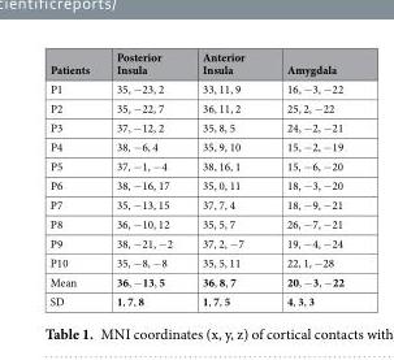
<table><thead><tr><td>Patients</td><td>Posterior Insula</td><td>Anterior Insula</td><td>Amygdala</td></tr></thead><tbody><tr><td>P1</td><td>35, −23, 2</td><td>33, 11, 9</td><td>16, −3, −22</td></tr><tr><td>P2</td><td>35, −22, 7</td><td>36, 11, 2</td><td>25, 2, −22</td></tr><tr><td>P3</td><td>37, −12, 2</td><td>35, 8, 5</td><td>24, −2, −21</td></tr><tr><td>P4</td><td>38, −6, 4</td><td>35, 9, 10</td><td>15, −2, −19</td></tr><tr><td>P5</td><td>37, −1, −4</td><td>38, 16, 1</td><td>15, −6, −20</td></tr><tr><td>P6</td><td>38, −16, 17</td><td>35, 0, 11</td><td>18, −3, −20</td></tr><tr><td>P7</td><td>35, −13, 15</td><td>37, 7, 4</td><td>18, −9, −21</td></tr><tr><td>P8</td><td>36, −10, 12</td><td>35, 5, 7</td><td>26, −7, −21</td></tr><tr><td>P9</td><td>38, −21, −2</td><td>37, 2, −7</td><td>19, −4, −24</td></tr><tr><td>P10</td><td>35, −8, −8</td><td>35, 5, 11</td><td>22, 1, −28</td></tr><tr><td>Mean</td><td>36, −13, 5</td><td>36, 8, 7</td><td>20, −3, −22</td></tr><tr><td>SD</td><td>1, 7, 8</td><td>1, 7, 5</td><td>4, 3, 3</td></tr></tbody></table>